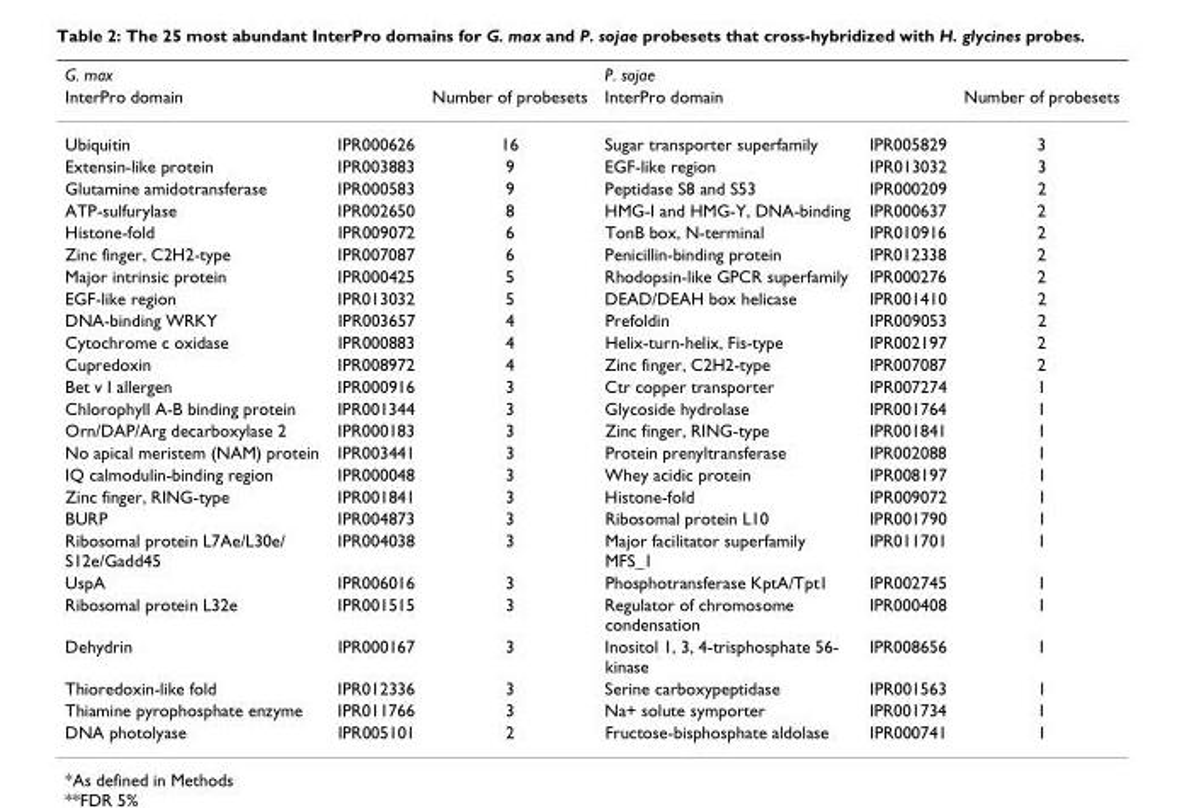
<table><thead><tr><td rowspan="2">G. max InterPro domain</td><td rowspan="2"></td><td rowspan="2">Number of probesets</td><td rowspan="2">P. sojae InterPro domain</td><td rowspan="2"></td><td rowspan="2">Number of probesets</td></tr><tr></tr></thead><tbody><tr><td>Ubiquitin</td><td>IPR000626</td><td>16</td><td>Sugar transporter superfamily</td><td>IPR005829</td><td>3</td></tr><tr><td>Extensin-like protein</td><td>IPR003883</td><td>9</td><td>EGF-like region</td><td>IPR013032</td><td>3</td></tr><tr><td>Glutamine amidotransferase</td><td>IPR000583</td><td>9</td><td>Peptidase S8 and S53</td><td>IPR000209</td><td>2</td></tr><tr><td>ATP-sulfurylase</td><td>IPR002650</td><td>8</td><td>HMG-I and HMG-Y, DNA-binding</td><td>IPR000637</td><td>2</td></tr><tr><td>Histone-fold</td><td>IPR009072</td><td>6</td><td>TonB box, N-terminal</td><td>IPR010916</td><td>2</td></tr><tr><td>Zinc finger, C2H2-type</td><td>IPR007087</td><td>6</td><td>Penicillin-binding protein</td><td>IPR012338</td><td>2</td></tr><tr><td>Major intrinsic protein</td><td>IPR000425</td><td>5</td><td>Rhodopsin-like GPCR superfamily</td><td>IPR000276</td><td>2</td></tr><tr><td>EGF-like region</td><td>IPR013032</td><td>5</td><td>DEAD/DEAH box helicase</td><td>IPR001410</td><td>2</td></tr><tr><td>DNA-binding WRKY</td><td>IPR003657</td><td>4</td><td>Prefoldin</td><td>IPR009053</td><td>2</td></tr><tr><td>Cytochrome c oxidase</td><td>IPR000883</td><td>4</td><td>Helix-turn-helix, Fis-type</td><td>IPR002197</td><td>2</td></tr><tr><td>Cupredoxin</td><td>IPR008972</td><td>4</td><td>Zinc finger, C2H2-type</td><td>IPR007087</td><td>2</td></tr><tr><td>Bet v I allergen</td><td>IPR000916</td><td>3</td><td>Ctr copper transporter</td><td>IPR007274</td><td>1</td></tr><tr><td>Chlorophyll A-B binding protein</td><td>IPR001344</td><td>3</td><td>Glycoside hydrolase</td><td>IPR001764</td><td>1</td></tr><tr><td>Orn/DAP/Arg decarboxylase 2</td><td>IPR000183</td><td>3</td><td>Zinc finger, RING-type</td><td>IPR001841</td><td>1</td></tr><tr><td>No apical meristem (NAM) protein</td><td>IPR003441</td><td>3</td><td>Protein prenyltransferase</td><td>IPR002088</td><td>1</td></tr><tr><td>IQ calmodulin-binding region</td><td>IPR000048</td><td>3</td><td>Whey acidic protein</td><td>IPR008197</td><td>1</td></tr><tr><td>Zinc finger, RING-type</td><td>IPR001841</td><td>3</td><td>Histone-fold</td><td>IPR009072</td><td>1</td></tr><tr><td>BURP</td><td>IPR004873</td><td>3</td><td>Ribosomal protein L10</td><td>IPR001790</td><td>1</td></tr><tr><td>Ribosomal protein L7Ae/L30e/ S12e/Gadd45</td><td>IPR004038</td><td>3</td><td>Major facilitator superfamily MFS_1</td><td>IPR011701</td><td>1</td></tr><tr><td>UspA</td><td>IPR006016</td><td>3</td><td>Phosphotransferase KptA/Tpt1</td><td>IPR002745</td><td>1</td></tr><tr><td>Ribosomal protein L32e</td><td>IPR001515</td><td>3</td><td>Regulator of chromosome condensation</td><td>IPR000408</td><td>1</td></tr><tr><td>Dehydrin</td><td>IPR000167</td><td>3</td><td>Inositol 1, 3, 4-trisphosphate 56- kinase</td><td>IPR008656</td><td>1</td></tr><tr><td>Thioredoxin-like fold</td><td>IPR012336</td><td>3</td><td>Serine carboxypeptidase</td><td>IPR001563</td><td>1</td></tr><tr><td>Thiamine pyrophosphate enzyme</td><td>IPR011766</td><td>3</td><td>Na+ solute symporter</td><td>IPR001734</td><td>1</td></tr><tr><td>DNA photolyase</td><td>IPR005101</td><td>2</td><td>Fructose-bisphosphate aldolase</td><td>IPR000741</td><td>1</td></tr></tbody></table>